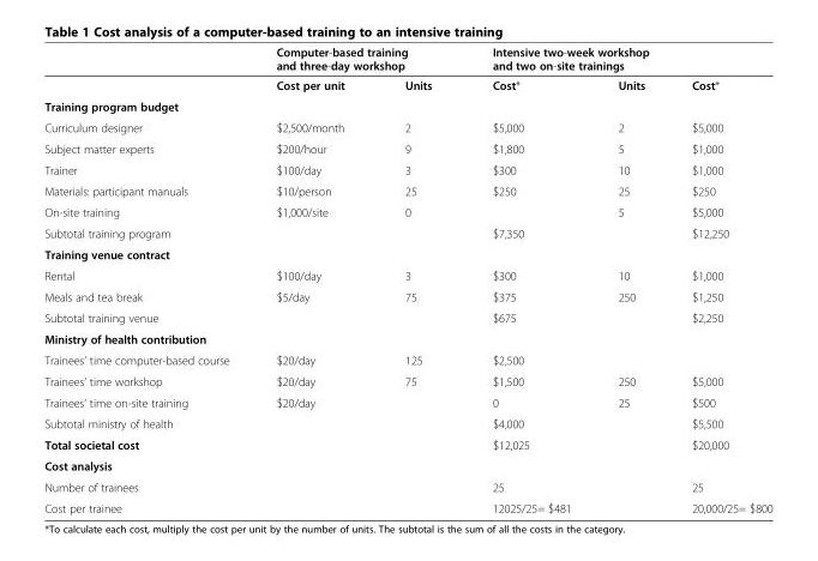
<table><thead><tr><td rowspan="2"></td><td colspan="2">Computer-based training and three-day workshop</td><td colspan="3">Intensive two-week workshop and two on-site trainings</td></tr><tr><td>Cost per unit</td><td>Units</td><td>Cost*</td><td>Units</td><td>Cost*</td></tr></thead><tbody><tr><td colspan="6">Training program budget</td></tr><tr><td>Curriculum designer</td><td>$2,500/month</td><td>2</td><td>$5,000</td><td>2</td><td>$5,000</td></tr><tr><td>Subject matter experts</td><td>$200/hour</td><td>9</td><td>$1,800</td><td>5</td><td>$1,000</td></tr><tr><td>Trainer</td><td>$100/day</td><td>3</td><td>$300</td><td>10</td><td>$1,000</td></tr><tr><td>Materials: participant manuals</td><td>$10/person</td><td>25</td><td>$250</td><td>25</td><td>$250</td></tr><tr><td>On-site training</td><td>$1,000/site</td><td>0</td><td></td><td>5</td><td>$5,000</td></tr><tr><td>Subtotal training program</td><td></td><td></td><td>$7,350</td><td></td><td>$12,250</td></tr><tr><td colspan="6">Training venue contract</td></tr><tr><td>Rental</td><td>$100/day</td><td>3</td><td>$300</td><td>10</td><td>$1,000</td></tr><tr><td>Meals and tea break</td><td>$5/day</td><td>75</td><td>$375</td><td>250</td><td>$1,250</td></tr><tr><td>Subtotal training venue</td><td></td><td></td><td>$675</td><td></td><td>$2,250</td></tr><tr><td colspan="6">Ministry of health contribution</td></tr><tr><td>Trainees’ time computer-based course</td><td>$20/day</td><td>125</td><td>$2,500</td><td></td><td></td></tr><tr><td>Trainees’ time workshop</td><td>$20/day</td><td>75</td><td>$1,500</td><td>250</td><td>$5,000</td></tr><tr><td>Trainees’ time on-site training</td><td>$20/day</td><td></td><td>0</td><td>25</td><td>$500</td></tr><tr><td>Subtotal ministry of health</td><td></td><td></td><td>$4,000</td><td></td><td>$5,500</td></tr><tr><td>Total societal cost</td><td></td><td></td><td>$12,025</td><td></td><td>$20,000</td></tr><tr><td colspan="6">Cost analysis</td></tr><tr><td>Number of trainees</td><td></td><td></td><td>25</td><td></td><td>25</td></tr><tr><td>Cost per trainee</td><td></td><td></td><td>12025/25= $481</td><td></td><td>20,000/25= $800</td></tr></tbody></table>